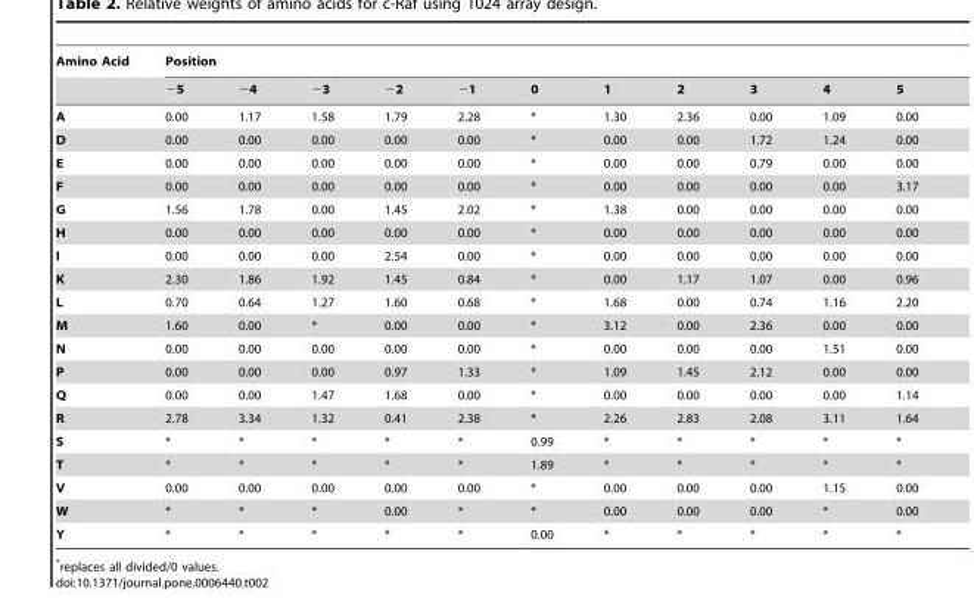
<table><thead><tr><td rowspan="2">Amino Acid</td><td colspan="11">Position</td></tr><tr><td>−5</td><td>−4</td><td>−3</td><td>−2</td><td>−1</td><td>0</td><td>1</td><td>2</td><td>3</td><td>4</td><td>5</td></tr></thead><tbody><tr><td>A</td><td>0.00</td><td>1.17</td><td>1.58</td><td>1.79</td><td>2.28</td><td>*</td><td>1.30</td><td>2.36</td><td>0.00</td><td>1.09</td><td>0.00</td></tr><tr><td>D</td><td>0.00</td><td>0.00</td><td>0.00</td><td>0.00</td><td>0.00</td><td>*</td><td>0.00</td><td>0.00</td><td>1.72</td><td>1.24</td><td>0.00</td></tr><tr><td>E</td><td>0.00</td><td>0.00</td><td>0.00</td><td>0.00</td><td>0.00</td><td>*</td><td>0.00</td><td>0.00</td><td>0.79</td><td>0.00</td><td>0.00</td></tr><tr><td>F</td><td>0.00</td><td>0.00</td><td>0.00</td><td>0.00</td><td>0.00</td><td>*</td><td>0.00</td><td>0.00</td><td>0.00</td><td>0.00</td><td>3.17</td></tr><tr><td>G</td><td>1.56</td><td>1.78</td><td>0.00</td><td>1.45</td><td>2.02</td><td>*</td><td>1.38</td><td>0.00</td><td>0.00</td><td>0.00</td><td>0.00</td></tr><tr><td>H</td><td>0.00</td><td>0.00</td><td>0.00</td><td>0.00</td><td>0.00</td><td>*</td><td>0.00</td><td>0.00</td><td>0.00</td><td>0.00</td><td>0.00</td></tr><tr><td>I</td><td>0.00</td><td>0.00</td><td>0.00</td><td>2.54</td><td>0.00</td><td>*</td><td>0.00</td><td>0.00</td><td>0.00</td><td>0.00</td><td>0.00</td></tr><tr><td>K</td><td>2.30</td><td>1.86</td><td>1.92</td><td>1.45</td><td>0.84</td><td>*</td><td>0.00</td><td>1.17</td><td>1.07</td><td>0.00</td><td>0.96</td></tr><tr><td>L</td><td>0.70</td><td>0.64</td><td>1.27</td><td>1.60</td><td>0.68</td><td>*</td><td>1.68</td><td>0.00</td><td>0.74</td><td>1.16</td><td>2.20</td></tr><tr><td>M</td><td>1.60</td><td>0.00</td><td>*</td><td>0.00</td><td>0.00</td><td>*</td><td>3.12</td><td>0.00</td><td>2.36</td><td>0.00</td><td>0.00</td></tr><tr><td>N</td><td>0.00</td><td>0.00</td><td>0.00</td><td>0.00</td><td>0.00</td><td>*</td><td>0.00</td><td>0.00</td><td>0.00</td><td>1.51</td><td>0.00</td></tr><tr><td>P</td><td>0.00</td><td>0.00</td><td>0.00</td><td>0.97</td><td>1.33</td><td>*</td><td>1.09</td><td>1.45</td><td>2.12</td><td>0.00</td><td>0.00</td></tr><tr><td>Q</td><td>0.00</td><td>0.00</td><td>1.47</td><td>1.68</td><td>0.00</td><td>*</td><td>0.00</td><td>0.00</td><td>0.00</td><td>0.00</td><td>1.14</td></tr><tr><td>R</td><td>2.78</td><td>3.34</td><td>1.32</td><td>0.41</td><td>2.38</td><td>*</td><td>2.26</td><td>2.83</td><td>2.08</td><td>3.11</td><td>1.64</td></tr><tr><td>S</td><td>*</td><td>*</td><td>*</td><td>*</td><td>*</td><td>0.99</td><td>*</td><td>*</td><td>*</td><td>*</td><td>*</td></tr><tr><td>T</td><td>*</td><td>*</td><td>*</td><td>*</td><td>*</td><td>1.89</td><td>*</td><td>*</td><td>*</td><td>*</td><td>*</td></tr><tr><td>V</td><td>0.00</td><td>0.00</td><td>0.00</td><td>0.00</td><td>0.00</td><td>*</td><td>0.00</td><td>0.00</td><td>0.00</td><td>1.15</td><td>0.00</td></tr><tr><td>W</td><td>*</td><td>*</td><td>*</td><td>0.00</td><td>*</td><td>*</td><td>0.00</td><td>0.00</td><td>0.00</td><td>*</td><td>0.00</td></tr><tr><td>Y</td><td>*</td><td>*</td><td>*</td><td>*</td><td>*</td><td>0.00</td><td>*</td><td>*</td><td>*</td><td>*</td><td>*</td></tr></tbody></table>